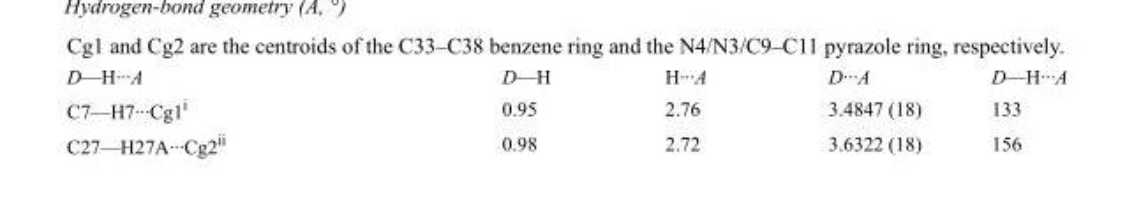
<table><tbody><tr><td>D—H···A</td><td>D—H</td><td>H···A</td><td>D···A</td><td>D—H···A</td></tr><tr><td>C7—H7···Cg1<sup>i</sup></td><td>0.95</td><td>2.76</td><td>3.4847 (18)</td><td>133</td></tr><tr><td>C27—H27A···Cg2<sup>ii</sup></td><td>0.98</td><td>2.72</td><td>3.6322 (18)</td><td>156</td></tr></tbody></table>